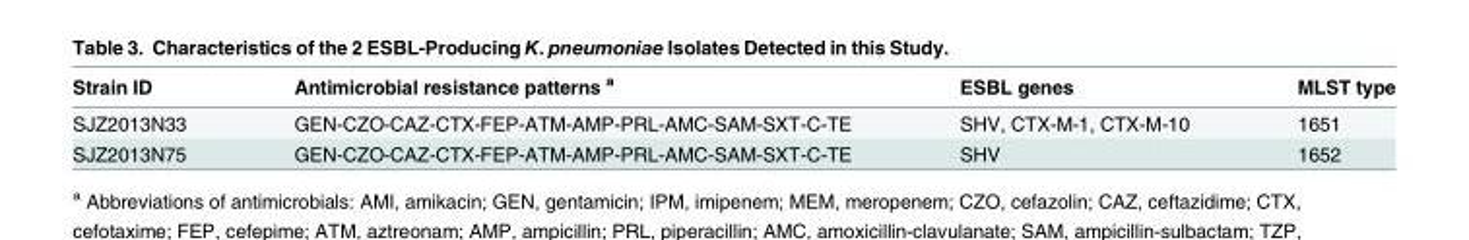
<table><thead><tr><td>Strain ID</td><td>Antimicrobial resistance patterns <sup>a</sup></td><td>ESBL genes</td><td>MLST type</td></tr></thead><tbody><tr><td>SJZ2013N33</td><td>GEN-CZO-CAZ-CTX-FEP-ATM-AMP-PRL-AMC-SAM-SXT-C-TE</td><td>SHV, CTX-M-1, CTX-M-10</td><td>1651</td></tr><tr><td>SJZ2013N75</td><td>GEN-CZO-CAZ-CTX-FEP-ATM-AMP-PRL-AMC-SAM-SXT-C-TE</td><td>SHV</td><td>1652</td></tr></tbody></table>